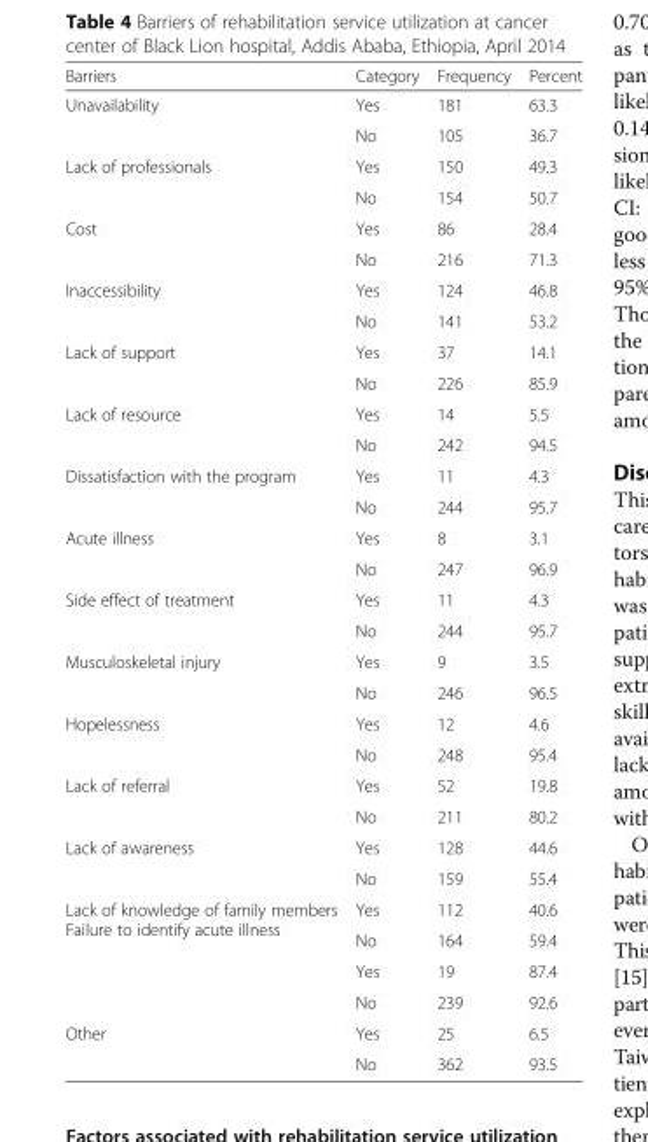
<table><thead><tr><td>Barriers</td><td>Category</td><td>Frequency</td><td>Percent</td></tr></thead><tbody><tr><td rowspan="2">Unavailability</td><td>Yes</td><td>181</td><td>63.3</td></tr><tr><td>No</td><td>105</td><td>36.7</td></tr><tr><td rowspan="2">Lack of professionals</td><td>Yes</td><td>150</td><td>49.3</td></tr><tr><td>No</td><td>154</td><td>50.7</td></tr><tr><td rowspan="2">Cost</td><td>Yes</td><td>86</td><td>28.4</td></tr><tr><td>No</td><td>216</td><td>71.3</td></tr><tr><td rowspan="2">Inaccessibility</td><td>Yes</td><td>124</td><td>46.8</td></tr><tr><td>No</td><td>141</td><td>53.2</td></tr><tr><td rowspan="2">Lack of support</td><td>Yes</td><td>37</td><td>14.1</td></tr><tr><td>No</td><td>226</td><td>85.9</td></tr><tr><td rowspan="2">Lack of resource</td><td>Yes</td><td>14</td><td>5.5</td></tr><tr><td>No</td><td>242</td><td>94.5</td></tr><tr><td rowspan="2">Dissatisfaction with the program</td><td>Yes</td><td>11</td><td>4.3</td></tr><tr><td>No</td><td>244</td><td>95.7</td></tr><tr><td rowspan="2">Acute illness</td><td>Yes</td><td>8</td><td>3.1</td></tr><tr><td>No</td><td>247</td><td>96.9</td></tr><tr><td rowspan="2">Side effect of treatment</td><td>Yes</td><td>11</td><td>4.3</td></tr><tr><td>No</td><td>244</td><td>95.7</td></tr><tr><td rowspan="2">Musculoskeletal injury</td><td>Yes</td><td>9</td><td>3.5</td></tr><tr><td>No</td><td>246</td><td>96.5</td></tr><tr><td rowspan="2">Hopelessness</td><td>Yes</td><td>12</td><td>4.6</td></tr><tr><td>No</td><td>248</td><td>95.4</td></tr><tr><td rowspan="2">Lack of referral</td><td>Yes</td><td>52</td><td>19.8</td></tr><tr><td>No</td><td>211</td><td>80.2</td></tr><tr><td rowspan="2">Lack of awareness</td><td>Yes</td><td>128</td><td>44.6</td></tr><tr><td>No</td><td>159</td><td>55.4</td></tr><tr><td rowspan="4">Lack of knowledge of family members Failure to identify acute illness</td><td>Yes</td><td>112</td><td>40.6</td></tr><tr><td>No</td><td>164</td><td>59.4</td></tr><tr><td>Yes</td><td>19</td><td>87.4</td></tr><tr><td>No</td><td>239</td><td>92.6</td></tr><tr><td rowspan="2">Other</td><td>Yes</td><td>25</td><td>6.5</td></tr><tr><td>No</td><td>362</td><td>93.5</td></tr></tbody></table>